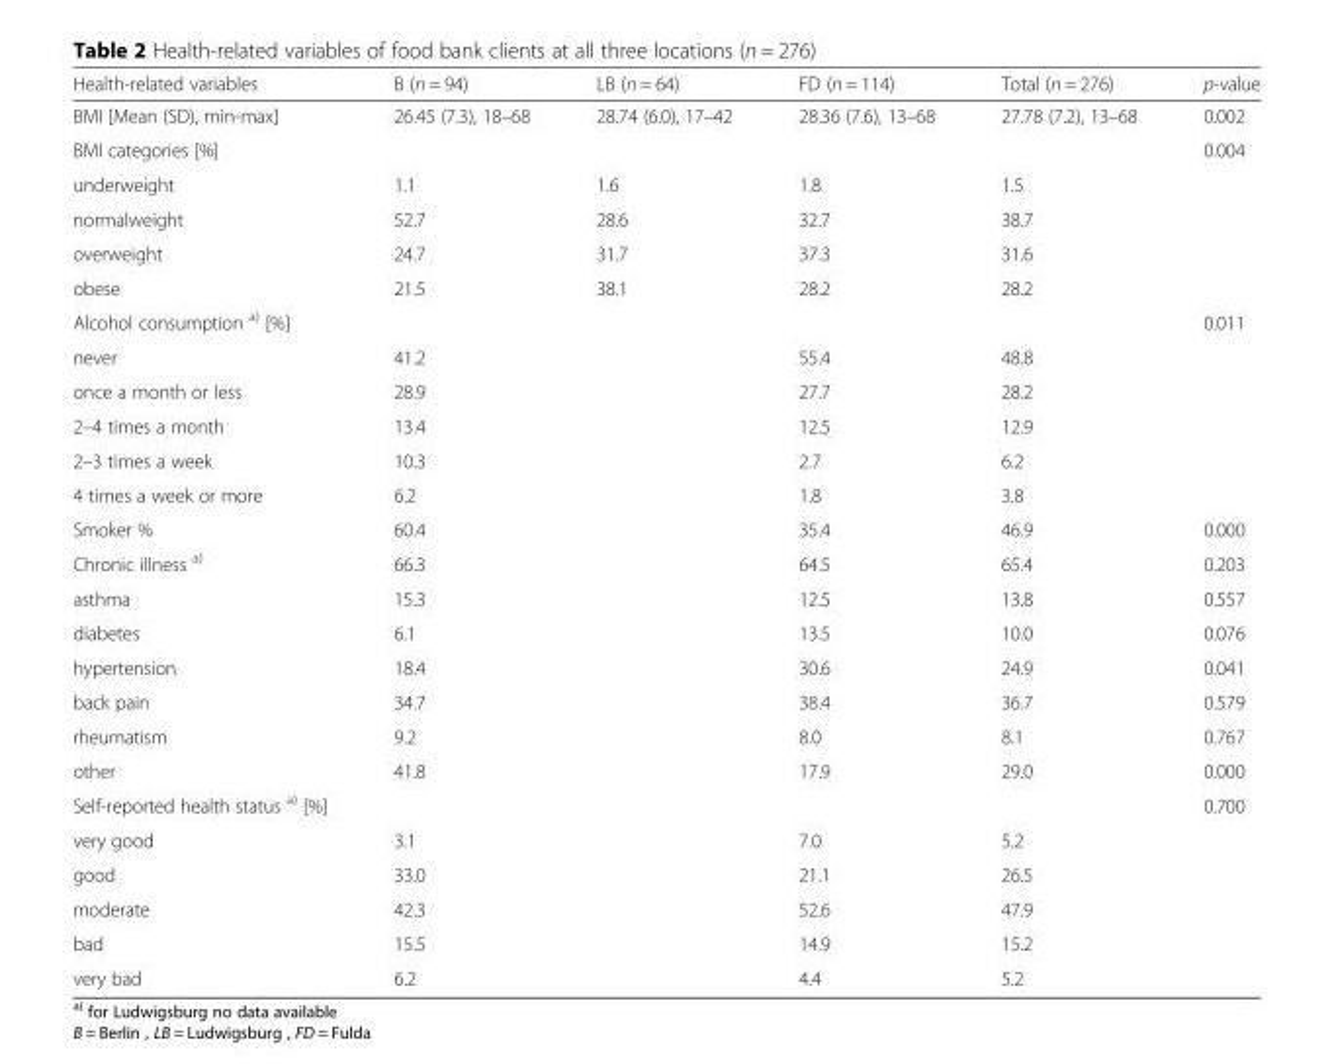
<table><thead><tr><td>Health-related variables</td><td>B (n = 94)</td><td>LB (n = 64)</td><td>FD (n = 114)</td><td>Total (n = 276)</td><td>p-value</td></tr></thead><tbody><tr><td>BMI [Mean (SD), min-max]</td><td>26.45 (7.3), 18–68</td><td>28.74 (6.0), 17–42</td><td>28.36 (7.6), 13–68</td><td>27.78 (7.2), 13–68</td><td>0.002</td></tr><tr><td>BMI categories [%]</td><td></td><td></td><td></td><td></td><td>0.004</td></tr><tr><td>underweight</td><td>1.1</td><td>1.6</td><td>1.8</td><td>1.5</td><td></td></tr><tr><td>normalweight</td><td>52.7</td><td>28.6</td><td>32.7</td><td>38.7</td><td></td></tr><tr><td>overweight</td><td>24.7</td><td>31.7</td><td>37.3</td><td>31.6</td><td></td></tr><tr><td>obese</td><td>21.5</td><td>38.1</td><td>28.2</td><td>28.2</td><td></td></tr><tr><td>Alcohol consumption <sup>a)</sup> [%]</td><td></td><td></td><td></td><td></td><td>0.011</td></tr><tr><td>never</td><td>41.2</td><td></td><td>55.4</td><td>48.8</td><td></td></tr><tr><td>once a month or less</td><td>28.9</td><td></td><td>27.7</td><td>28.2</td><td></td></tr><tr><td>2–4 times a month</td><td>13.4</td><td></td><td>12.5</td><td>12.9</td><td></td></tr><tr><td>2–3 times a week</td><td>10.3</td><td></td><td>2.7</td><td>6.2</td><td></td></tr><tr><td>4 times a week or more</td><td>6.2</td><td></td><td>1.8</td><td>3.8</td><td></td></tr><tr><td>Smoker %</td><td>60.4</td><td></td><td>35.4</td><td>46.9</td><td>0.000</td></tr><tr><td>Chronic illness <sup>a)</sup></td><td>66.3</td><td></td><td>64.5</td><td>65.4</td><td>0.203</td></tr><tr><td>asthma</td><td>15.3</td><td></td><td>12.5</td><td>13.8</td><td>0.557</td></tr><tr><td>diabetes</td><td>6.1</td><td></td><td>13.5</td><td>10.0</td><td>0.076</td></tr><tr><td>hypertension</td><td>18.4</td><td></td><td>30.6</td><td>24.9</td><td>0.041</td></tr><tr><td>back pain</td><td>34.7</td><td></td><td>38.4</td><td>36.7</td><td>0.579</td></tr><tr><td>rheumatism</td><td>9.2</td><td></td><td>8.0</td><td>8.1</td><td>0.767</td></tr><tr><td>other</td><td>41.8</td><td></td><td>17.9</td><td>29.0</td><td>0.000</td></tr><tr><td>Self-reported health status <sup>a)</sup> [%]</td><td></td><td></td><td></td><td></td><td>0.700</td></tr><tr><td>very good</td><td>3.1</td><td></td><td>7.0</td><td>5.2</td><td></td></tr><tr><td>good</td><td>33.0</td><td></td><td>21.1</td><td>26.5</td><td></td></tr><tr><td>moderate</td><td>42.3</td><td></td><td>52.6</td><td>47.9</td><td></td></tr><tr><td>bad</td><td>15.5</td><td></td><td>14.9</td><td>15.2</td><td></td></tr><tr><td>very bad</td><td>6.2</td><td></td><td>4.4</td><td>5.2</td><td></td></tr></tbody></table>